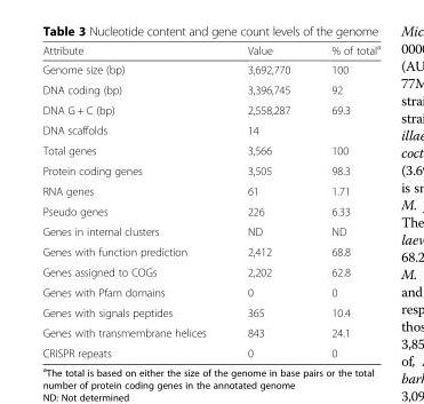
<table><thead><tr><td>Attribute</td><td>Value</td><td>% of total<sup>a</sup></td></tr></thead><tbody><tr><td>Genome size (bp)</td><td>3,692,770</td><td>100</td></tr><tr><td>DNA coding (bp)</td><td>3,396,745</td><td>92</td></tr><tr><td>DNA G + C (bp)</td><td>2,558,287</td><td>69.3</td></tr><tr><td>DNA scaffolds</td><td>14</td><td></td></tr><tr><td>Total genes</td><td>3,566</td><td>100</td></tr><tr><td>Protein coding genes</td><td>3,505</td><td>98.3</td></tr><tr><td>RNA genes</td><td>61</td><td>1.71</td></tr><tr><td>Pseudo genes</td><td>226</td><td>6.33</td></tr><tr><td>Genes in internal clusters</td><td>ND</td><td>ND</td></tr><tr><td>Genes with function prediction</td><td>2,412</td><td>68.8</td></tr><tr><td>Genes assigned to COGs</td><td>2,202</td><td>62.8</td></tr><tr><td>Genes with Pfam domains</td><td>0</td><td>0</td></tr><tr><td>Genes with signals peptides</td><td>365</td><td>10.4</td></tr><tr><td>Genes with transmembrane helices</td><td>843</td><td>24.1</td></tr><tr><td>CRISPR repeats</td><td>0</td><td>0</td></tr></tbody></table>